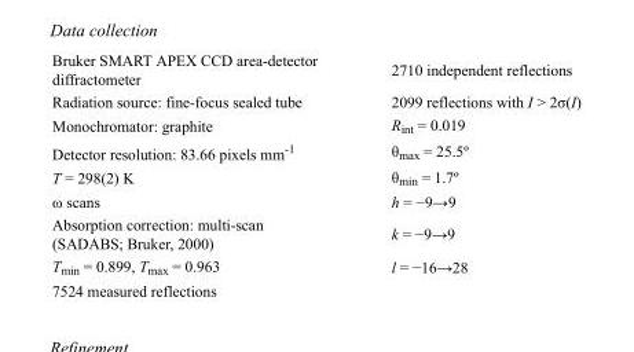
<table><tbody><tr><td>Bruker SMART APEX CCD area-detector diffractometer</td><td>2710 independent reflections</td></tr><tr><td>Radiation source: fine-focus sealed tube</td><td>2099 reflections with I &gt; 2σ(I)</td></tr><tr><td>Monochromator: graphite</td><td>R<sub>int</sub> = 0.019</td></tr><tr><td>Detector resolution: 83.66 pixels mm<sup>-1</sup></td><td>θ<sub>max</sub> = 25.5º</td></tr><tr><td>T = 298(2) K</td><td>θ<sub>min</sub> = 1.7º</td></tr><tr><td>ω scans</td><td>h = −9→9</td></tr><tr><td>Absorption correction: multi-scan (SADABS; Bruker, 2000)</td><td>k = −9→9</td></tr><tr><td>T<sub>min</sub> = 0.899, T<sub>max</sub> = 0.963</td><td>l = −16→28</td></tr><tr><td>7524 measured reflections</td><td></td></tr></tbody></table>